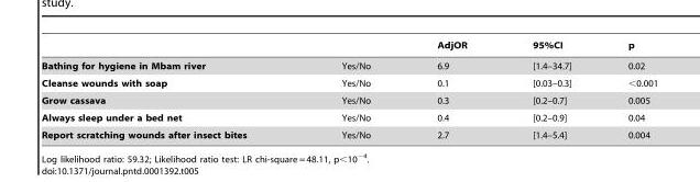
<table><thead><tr><td></td><td></td><td>AdjOR</td><td>95%CI</td><td>p</td></tr></thead><tbody><tr><td>Bathing for hygiene in Mbam river</td><td>Yes/No</td><td>6.9</td><td>[1.4–34.7]</td><td>0.02</td></tr><tr><td>Cleanse wounds with soap</td><td>Yes/No</td><td>0.1</td><td>[0.03–0.3]</td><td>&lt;0.001</td></tr><tr><td>Grow cassava</td><td>Yes/No</td><td>0.3</td><td>[0.2–0.7]</td><td>0.005</td></tr><tr><td>Always sleep under a bed net</td><td>Yes/No</td><td>0.4</td><td>[0.2–0.9]</td><td>0.04</td></tr><tr><td>Report scratching wounds after insect bites</td><td>Yes/No</td><td>2.7</td><td>[1.4–5.4]</td><td>0.004</td></tr></tbody></table>